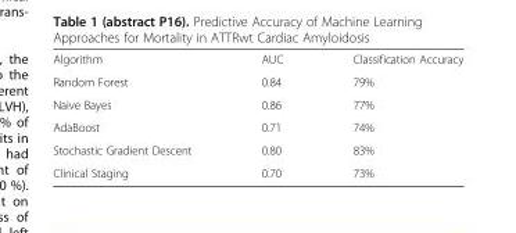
<table><tbody><tr><td>Algorithm</td><td>AUC</td><td>Classification Accuracy</td></tr><tr><td>Random Forest</td><td>0.84</td><td>79%</td></tr><tr><td>Naive Bayes</td><td>0.86</td><td>77%</td></tr><tr><td>AdaBoost</td><td>0.71</td><td>74%</td></tr><tr><td>Stochastic Gradient Descent</td><td>0.80</td><td>83%</td></tr><tr><td>Clinical Staging</td><td>0.70</td><td>73%</td></tr></tbody></table>